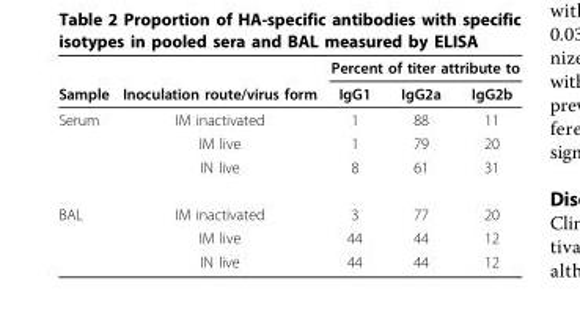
<table><thead><tr><td rowspan="2">Sample</td><td rowspan="2">Inoculation route/virus form</td><td colspan="3">Percent of titer attribute to</td></tr><tr><td>IgG1</td><td>IgG2a</td><td>IgG2b</td></tr></thead><tbody><tr><td rowspan="3">Serum</td><td>IM inactivated</td><td>1</td><td>88</td><td>11</td></tr><tr><td>IM live</td><td>1</td><td>79</td><td>20</td></tr><tr><td>IN live</td><td>8</td><td>61</td><td>31</td></tr><tr><td rowspan="3">BAL</td><td>IM inactivated</td><td>3</td><td>77</td><td>20</td></tr><tr><td>IM live</td><td>44</td><td>44</td><td>12</td></tr><tr><td>IN live</td><td>44</td><td>44</td><td>12</td></tr></tbody></table>